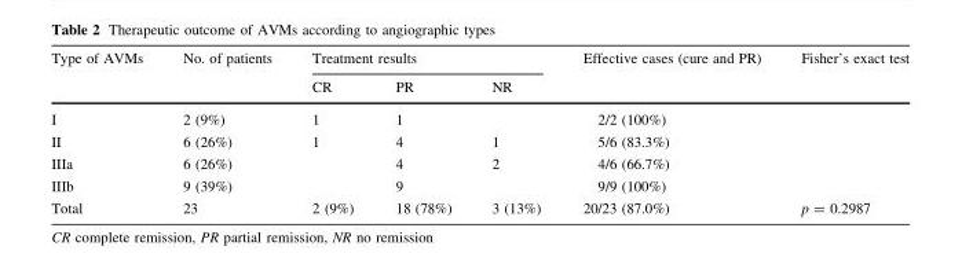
<table><thead><tr><td rowspan="2">Type of AVMs</td><td rowspan="2">No. of patients</td><td colspan="3">Treatment results</td><td rowspan="2">Effective cases (cure and PR)</td><td rowspan="2">Fisher’s exact test</td></tr><tr><td>CR</td><td>PR</td><td>NR</td></tr></thead><tbody><tr><td>I</td><td>2 (9%)</td><td>1</td><td>1</td><td></td><td>2/2 (100%)</td><td></td></tr><tr><td>II</td><td>6 (26%)</td><td>1</td><td>4</td><td>1</td><td>5/6 (83.3%)</td><td></td></tr><tr><td>IIIa</td><td>6 (26%)</td><td></td><td>4</td><td>2</td><td>4/6 (66.7%)</td><td></td></tr><tr><td>IIIb</td><td>9 (39%)</td><td></td><td>9</td><td></td><td>9/9 (100%)</td><td></td></tr><tr><td>Total</td><td>23</td><td>2 (9%)</td><td>18 (78%)</td><td>3 (13%)</td><td>20/23 (87.0%)</td><td>p = 0.2987</td></tr></tbody></table>